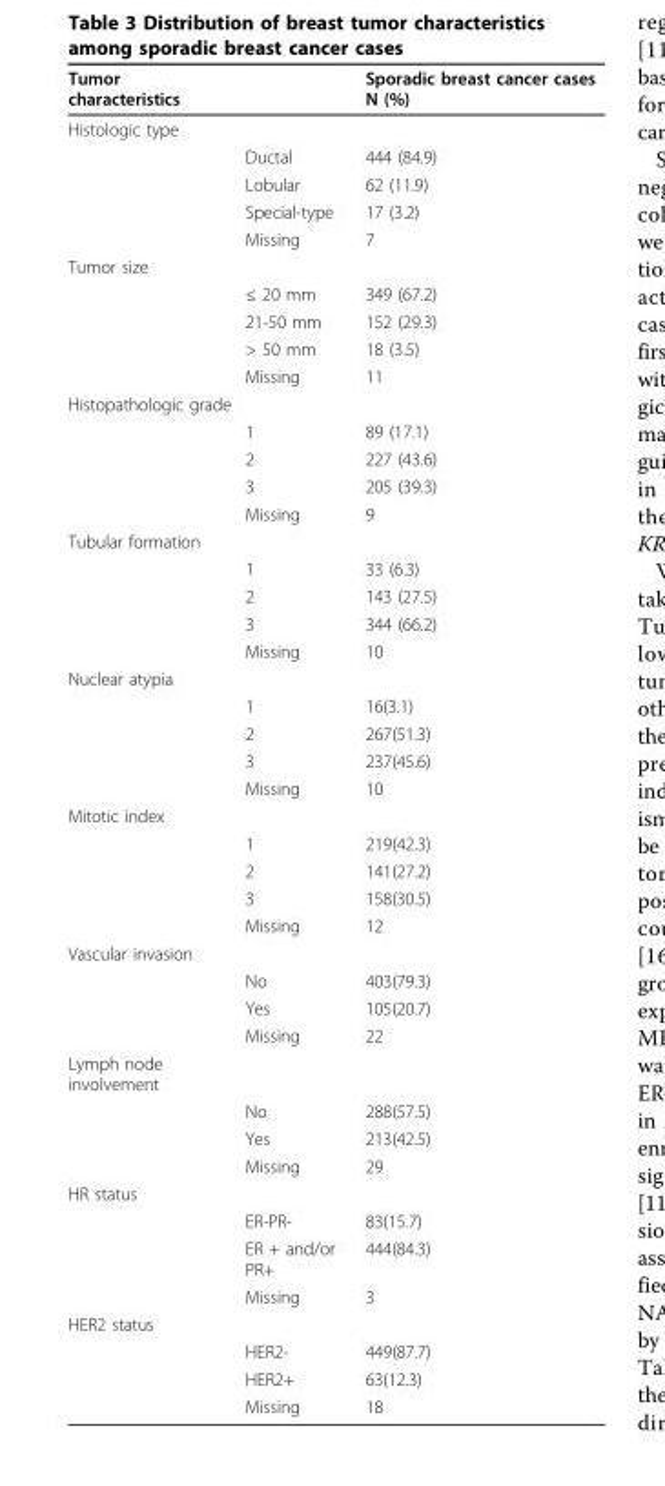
<table><thead><tr><td>Tumor characteristics</td><td></td><td>Sporadic breast cancer cases N (%)</td></tr></thead><tbody><tr><td colspan="3">Histologic type</td></tr><tr><td></td><td>Ductal</td><td>444 (84.9)</td></tr><tr><td></td><td>Lobular</td><td>62 (11.9)</td></tr><tr><td></td><td>Special-type</td><td>17 (3.2)</td></tr><tr><td></td><td>Missing</td><td>7</td></tr><tr><td colspan="3">Tumor size</td></tr><tr><td></td><td>≤ 20 mm</td><td>349 (67.2)</td></tr><tr><td></td><td>21-50 mm</td><td>152 (29.3)</td></tr><tr><td></td><td>&gt; 50 mm</td><td>18 (3.5)</td></tr><tr><td></td><td>Missing</td><td>11</td></tr><tr><td colspan="3">Histopathologic grade</td></tr><tr><td></td><td>1</td><td>89 (17.1)</td></tr><tr><td></td><td>2</td><td>227 (43.6)</td></tr><tr><td></td><td>3</td><td>205 (39.3)</td></tr><tr><td></td><td>Missing</td><td>9</td></tr><tr><td colspan="3">Tubular formation</td></tr><tr><td></td><td>1</td><td>33 (6.3)</td></tr><tr><td></td><td>2</td><td>143 (27.5)</td></tr><tr><td></td><td>3</td><td>344 (66.2)</td></tr><tr><td></td><td>Missing</td><td>10</td></tr><tr><td colspan="3">Nuclear atypia</td></tr><tr><td></td><td>1</td><td>16(3.1)</td></tr><tr><td></td><td>2</td><td>267(51.3)</td></tr><tr><td></td><td>3</td><td>237(45.6)</td></tr><tr><td></td><td>Missing</td><td>10</td></tr><tr><td colspan="3">Mitotic index</td></tr><tr><td></td><td>1</td><td>219(42.3)</td></tr><tr><td></td><td>2</td><td>141(27.2)</td></tr><tr><td></td><td>3</td><td>158(30.5)</td></tr><tr><td></td><td>Missing</td><td>12</td></tr><tr><td colspan="3">Vascular invasion</td></tr><tr><td></td><td>No</td><td>403(79.3)</td></tr><tr><td></td><td>Yes</td><td>105(20.7)</td></tr><tr><td></td><td>Missing</td><td>22</td></tr><tr><td colspan="3">Lymph node involvement</td></tr><tr><td></td><td>No</td><td>288(57.5)</td></tr><tr><td></td><td>Yes</td><td>213(42.5)</td></tr><tr><td></td><td>Missing</td><td>29</td></tr><tr><td colspan="3">HR status</td></tr><tr><td></td><td>ER-PR-</td><td>83(15.7)</td></tr><tr><td></td><td>ER + and/or PR+</td><td>444(84.3)</td></tr><tr><td></td><td>Missing</td><td>3</td></tr><tr><td colspan="3">HER2 status</td></tr><tr><td></td><td>HER2-</td><td>449(87.7)</td></tr><tr><td></td><td>HER2+</td><td>63(12.3)</td></tr><tr><td></td><td>Missing</td><td>18</td></tr></tbody></table>